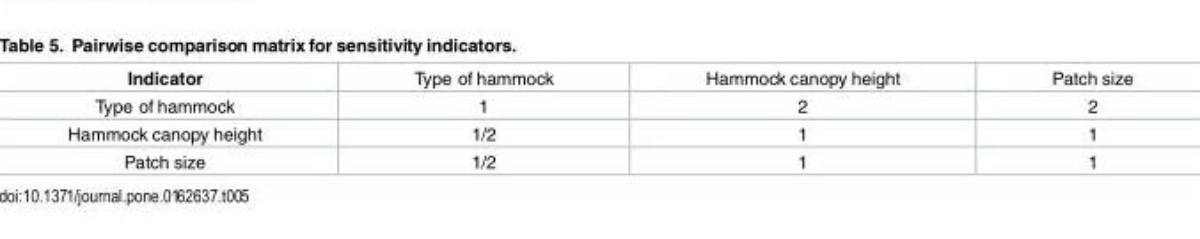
<table><tbody><tr><td>Indicator</td><td>Type of hammock</td><td>Hammock canopy height</td><td>Patch size</td></tr><tr><td>Type of hammock</td><td>1</td><td>2</td><td>2</td></tr><tr><td>Hammock canopy height</td><td>1/2</td><td>1</td><td>1</td></tr><tr><td>Patch size</td><td>1/2</td><td>1</td><td>1</td></tr></tbody></table>